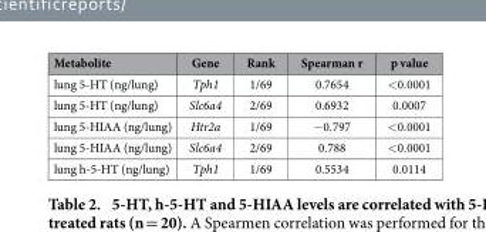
<table><thead><tr><td>Metabolite</td><td>Gene</td><td>Rank</td><td>Spearman r</td><td>p value</td></tr></thead><tbody><tr><td>lung 5-HT (ng/lung)</td><td>Tph1</td><td>1/69</td><td>0.7654</td><td>&lt; 0.0001</td></tr><tr><td>lung 5-HT (ng/lung)</td><td>Slc6a4</td><td>2/69</td><td>0.6932</td><td>0.0007</td></tr><tr><td>lung 5-HIAA (ng/lung)</td><td>Htr2a</td><td>1/69</td><td>− 0.797</td><td>&lt; 0.0001</td></tr><tr><td>lung 5-HIAA (ng/lung)</td><td>Slc6a4</td><td>2/69</td><td>0.788</td><td>&lt; 0.0001</td></tr><tr><td>lung h-5-HT (ng/lung)</td><td>Tph1</td><td>1/69</td><td>0.5534</td><td>0.0114</td></tr></tbody></table>